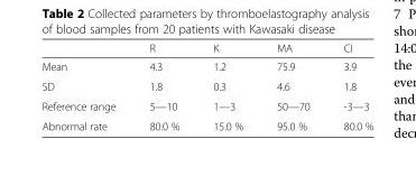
<table><thead><tr><td></td><td>R</td><td>K</td><td>MA</td><td>CI</td></tr></thead><tbody><tr><td>Mean</td><td>4.3</td><td>1.2</td><td>75.9</td><td>3.9</td></tr><tr><td>SD</td><td>1.8</td><td>0.3</td><td>4.6</td><td>1.8</td></tr><tr><td>Reference range</td><td>5—10</td><td>1—3</td><td>50—70</td><td>-3—3</td></tr><tr><td>Abnormal rate</td><td>80.0 %</td><td>15.0 %</td><td>95.0 %</td><td>80.0 %</td></tr></tbody></table>